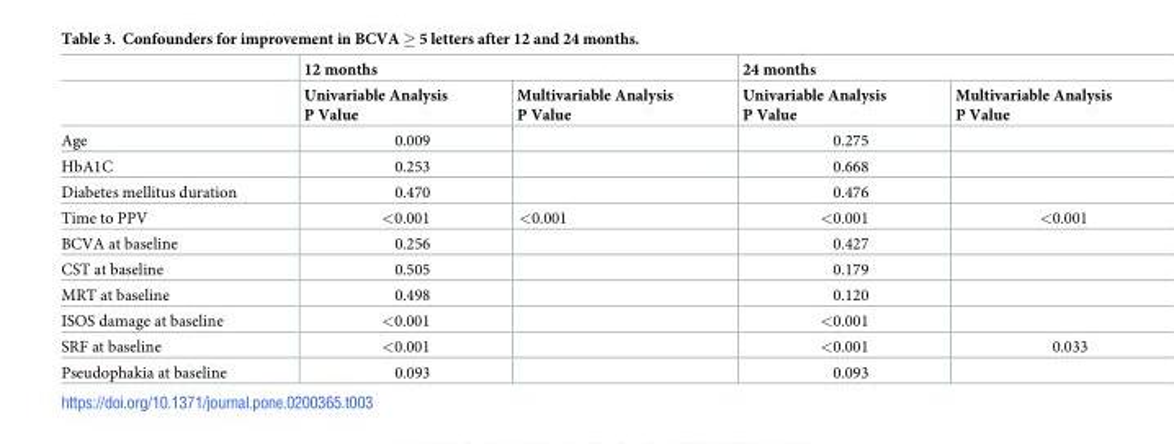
<table><thead><tr><td rowspan="2"></td><td colspan="2">12 months</td><td colspan="2">24 months</td></tr><tr><td>Univariable Analysis P Value</td><td>Multivariable Analysis P Value</td><td>Univariable Analysis P Value</td><td>Multivariable Analysis P Value</td></tr></thead><tbody><tr><td>Age</td><td>0.009</td><td></td><td>0.275</td><td></td></tr><tr><td>HbA1C</td><td>0.253</td><td></td><td>0.668</td><td></td></tr><tr><td>Diabetes mellitus duration</td><td>0.470</td><td></td><td>0.476</td><td></td></tr><tr><td>Time to PPV</td><td>&lt;0.001</td><td>&lt;0.001</td><td>&lt;0.001</td><td>&lt;0.001</td></tr><tr><td>BCVA at baseline</td><td>0.256</td><td></td><td>0.427</td><td></td></tr><tr><td>CST at baseline</td><td>0.505</td><td></td><td>0.179</td><td></td></tr><tr><td>MRT at baseline</td><td>0.498</td><td></td><td>0.120</td><td></td></tr><tr><td>ISOS damage at baseline</td><td>&lt;0.001</td><td></td><td>&lt;0.001</td><td></td></tr><tr><td>SRF at baseline</td><td>&lt;0.001</td><td></td><td>&lt;0.001</td><td>0.033</td></tr><tr><td>Pseudophakia at baseline</td><td>0.093</td><td></td><td>0.093</td><td></td></tr></tbody></table>